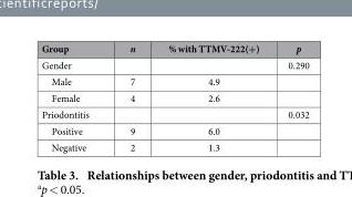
<table><thead><tr><td>Group</td><td>n</td><td>% with TTMV-222(+)</td><td>p</td></tr></thead><tbody><tr><td>Gender</td><td></td><td></td><td>0.290</td></tr><tr><td>Male</td><td>7</td><td>4.9</td><td></td></tr><tr><td>Female</td><td>4</td><td>2.6</td><td></td></tr><tr><td>Priodontitis</td><td></td><td></td><td>0.032</td></tr><tr><td>Positive</td><td>9</td><td>6.0</td><td></td></tr><tr><td>Negative</td><td>2</td><td>1.3</td><td></td></tr></tbody></table>